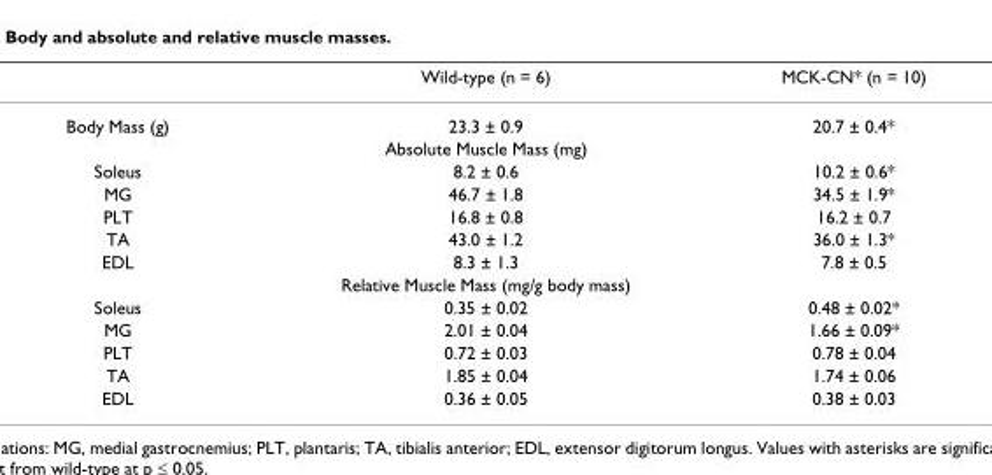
<table><thead><tr><td></td><td>Wild-type (n = 6)</td><td>MCK-CN* (n = 10)</td></tr></thead><tbody><tr><td>Body Mass (g)</td><td>23.3 ± 0.9</td><td>20.7 ± 0.4*</td></tr><tr><td colspan="3">Absolute Muscle Mass (mg)</td></tr><tr><td>Soleus</td><td>8.2 ± 0.6</td><td>10.2 ± 0.6*</td></tr><tr><td>MG</td><td>46.7 ± 1.8</td><td>34.5 ± 1.9*</td></tr><tr><td>PLT</td><td>16.8 ± 0.8</td><td>16.2 ± 0.7</td></tr><tr><td>TA</td><td>43.0 ± 1.2</td><td>36.0 ± 1.3*</td></tr><tr><td>EDL</td><td>8.3 ± 1.3</td><td>7.8 ± 0.5</td></tr><tr><td colspan="3">Relative Muscle Mass (mg/g body mass)</td></tr><tr><td>Soleus</td><td>0.35 ± 0.02</td><td>0.48 ± 0.02*</td></tr><tr><td>MG</td><td>2.01 ± 0.04</td><td>1.66 ± 0.09*</td></tr><tr><td>PLT</td><td>0.72 ± 0.03</td><td>0.78 ± 0.04</td></tr><tr><td>TA</td><td>1.85 ± 0.04</td><td>1.74 ± 0.06</td></tr><tr><td>EDL</td><td>0.36 ± 0.05</td><td>0.38 ± 0.03</td></tr></tbody></table>